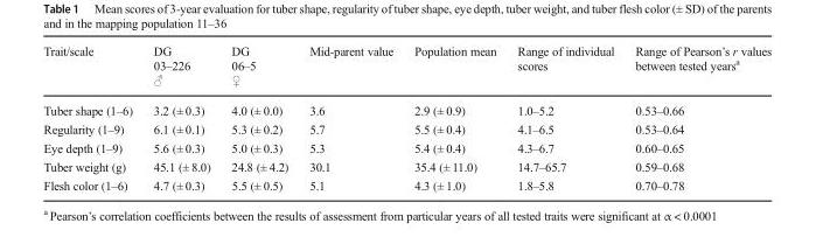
<table><thead><tr><td>Trait/scale</td><td>DG 03–226 ♂</td><td>DG 06–5 ♀</td><td>Mid-parent value</td><td>Population mean</td><td>Range of individual scores</td><td>Range of Pearson’s r values between tested years<sup>a</sup></td></tr></thead><tbody><tr><td>Tuber shape (1–6)</td><td>3.2 (± 0.3)</td><td>4.0 (± 0.0)</td><td>3.6</td><td>2.9 (± 0.9)</td><td>1.0–5.2</td><td>0.53–0.66</td></tr><tr><td>Regularity (1–9)</td><td>6.1 (± 0.1)</td><td>5.3 (± 0.2)</td><td>5.7</td><td>5.5 (± 0.4)</td><td>4.1–6.5</td><td>0.53–0.64</td></tr><tr><td>Eye depth (1–9)</td><td>5.6 (± 0.3)</td><td>5.0 (± 0.3)</td><td>5.3</td><td>5.4 (± 0.4)</td><td>4.3–6.7</td><td>0.60–0.65</td></tr><tr><td>Tuber weight (g)</td><td>45.1 (± 8.0)</td><td>24.8 (± 4.2)</td><td>30.1</td><td>35.4 (± 11.0)</td><td>14.7–65.7</td><td>0.59–0.68</td></tr><tr><td>Flesh color (1–6)</td><td>4.7 (± 0.3)</td><td>5.5 (± 0.5)</td><td>5.1</td><td>4.3 (± 1.0)</td><td>1.8–5.8</td><td>0.70–0.78</td></tr></tbody></table>